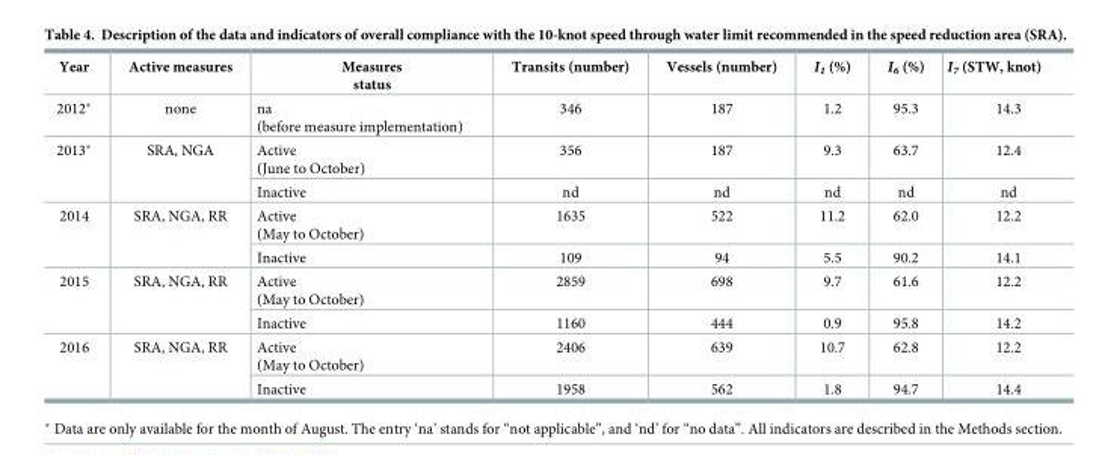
<table><thead><tr><td>Year</td><td>Active measures</td><td>Measures status</td><td>Transits (number)</td><td>Vessels (number)</td><td>I<sub>1</sub> (%)</td><td>I<sub>6</sub> (%)</td><td>I<sub>7</sub> (STW, knot)</td></tr></thead><tbody><tr><td>2012*</td><td>none</td><td>na (before measure implementation)</td><td>346</td><td>187</td><td>1.2</td><td>95.3</td><td>14.3</td></tr><tr><td rowspan="2">2013*</td><td rowspan="2">SRA, NGA</td><td>Active (June to October)</td><td>356</td><td>187</td><td>9.3</td><td>63.7</td><td>12.4</td></tr><tr><td>Inactive</td><td>nd</td><td>nd</td><td>nd</td><td>nd</td><td>nd</td></tr><tr><td rowspan="2">2014</td><td rowspan="2">SRA, NGA, RR</td><td>Active (May to October)</td><td>1635</td><td>522</td><td>11.2</td><td>62.0</td><td>12.2</td></tr><tr><td>Inactive</td><td>109</td><td>94</td><td>5.5</td><td>90.2</td><td>14.1</td></tr><tr><td rowspan="2">2015</td><td rowspan="2">SRA, NGA, RR</td><td>Active (May to October)</td><td>2859</td><td>698</td><td>9.7</td><td>61.6</td><td>12.2</td></tr><tr><td>Inactive</td><td>1160</td><td>444</td><td>0.9</td><td>95.8</td><td>14.2</td></tr><tr><td rowspan="2">2016</td><td rowspan="2">SRA, NGA, RR</td><td>Active (May to October)</td><td>2406</td><td>639</td><td>10.7</td><td>62.8</td><td>12.2</td></tr><tr><td>Inactive</td><td>1958</td><td>562</td><td>1.8</td><td>94.7</td><td>14.4</td></tr></tbody></table>